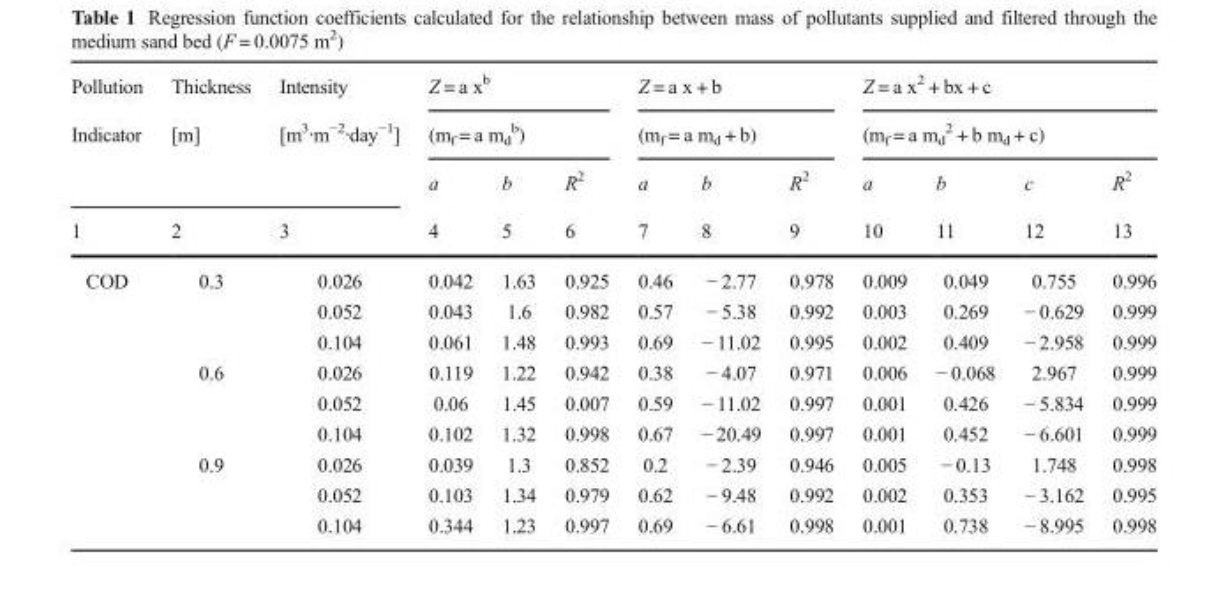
<table><thead><tr><td rowspan="4">Pollution Indicator 1</td><td rowspan="4">Thickness [m] 2</td><td rowspan="4">Intensity [m<sup>3</sup>∙m<sup>−2</sup>∙day<sup>−1</sup>] 3</td><td rowspan="2" colspan="3">Z = a x<sup>b</sup> (m<sub>f</sub> = a m<sub>d</sub> <sup>b</sup>)</td><td rowspan="2" colspan="3">Z = a x + b (m<sub>f</sub> = a m<sub>d</sub> + b)</td><td rowspan="2" colspan="4">Z = a x<sup>2</sup> + bx + c (m<sub>f</sub> = a m<sub>d</sub> <sup>2</sup> + b m<sub>d</sub> + c)</td></tr><tr></tr><tr><td rowspan="2">a 4</td><td rowspan="2">b 5</td><td rowspan="2">R<sup>2</sup> 6</td><td rowspan="2">a 7</td><td rowspan="2">b 8</td><td rowspan="2">R<sup>2</sup> 9</td><td rowspan="2">a 10</td><td rowspan="2">b 11</td><td rowspan="2">c 12</td><td rowspan="2">R<sup>2</sup> 13</td></tr><tr></tr></thead><tbody><tr><td rowspan="9">COD</td><td rowspan="3">0.3</td><td>0.026</td><td>0.042</td><td>1.63</td><td>0.925</td><td>0.46</td><td>− 2.77</td><td>0.978</td><td>0.009</td><td>0.049</td><td>0.755</td><td>0.996</td></tr><tr><td>0.052</td><td>0.043</td><td>1.6</td><td>0.982</td><td>0.57</td><td>− 5.38</td><td>0.992</td><td>0.003</td><td>0.269</td><td>− 0.629</td><td>0.999</td></tr><tr><td>0.104</td><td>0.061</td><td>1.48</td><td>0.993</td><td>0.69</td><td>− 11.02</td><td>0.995</td><td>0.002</td><td>0.409</td><td>− 2.958</td><td>0.999</td></tr><tr><td rowspan="3">0.6</td><td>0.026</td><td>0.119</td><td>1.22</td><td>0.942</td><td>0.38</td><td>− 4.07</td><td>0.971</td><td>0.006</td><td>− 0.068</td><td>2.967</td><td>0.999</td></tr><tr><td>0.052</td><td>0.06</td><td>1.45</td><td>0.007</td><td>0.59</td><td>− 11.02</td><td>0.997</td><td>0.001</td><td>0.426</td><td>− 5.834</td><td>0.999</td></tr><tr><td>0.104</td><td>0.102</td><td>1.32</td><td>0.998</td><td>0.67</td><td>− 20.49</td><td>0.997</td><td>0.001</td><td>0.452</td><td>− 6.601</td><td>0.999</td></tr><tr><td rowspan="3">0.9</td><td>0.026</td><td>0.039</td><td>1.3</td><td>0.852</td><td>0.2</td><td>− 2.39</td><td>0.946</td><td>0.005</td><td>− 0.13</td><td>1.748</td><td>0.998</td></tr><tr><td>0.052</td><td>0.103</td><td>1.34</td><td>0.979</td><td>0.62</td><td>− 9.48</td><td>0.992</td><td>0.002</td><td>0.353</td><td>− 3.162</td><td>0.995</td></tr><tr><td>0.104</td><td>0.344</td><td>1.23</td><td>0.997</td><td>0.69</td><td>− 6.61</td><td>0.998</td><td>0.001</td><td>0.738</td><td>− 8.995</td><td>0.998</td></tr></tbody></table>